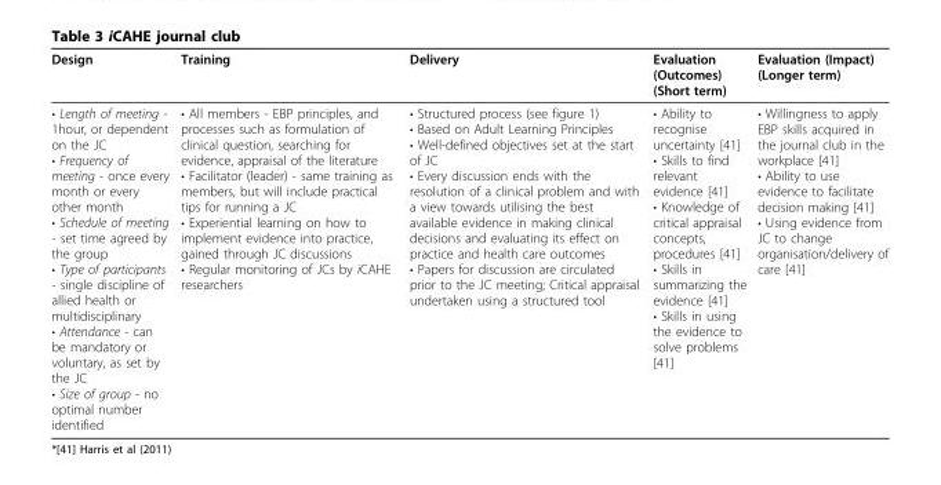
<table><thead><tr><td>Design</td><td>Training</td><td>Delivery</td><td>Evaluation (Outcomes) (Short term)</td><td>Evaluation (Impact) (Longer term)</td></tr></thead><tbody><tr><td>• Length of meeting - 1hour, or dependent on the JC • Frequency of meeting - once every month or every other month • Schedule of meeting - set time agreed by the group • Type of participants - single discipline of allied health or multidisciplinary • Attendance - can be mandatory or voluntary, as set by the JC • Size of group - no optimal number identified</td><td>• All members - EBP principles, and processes such as formulation of clinical question, searching for evidence, appraisal of the literature • Facilitator (leader) - same training as members, but will include practical tips for running a JC • Experiential learning on how to implement evidence into practice, gained through JC discussions • Regular monitoring of JCs by iCAHE researchers</td><td>• Structured process (see figure 1) • Based on Adult Learning Principles • Well-defined objectives set at the start of JC • Every discussion ends with the resolution of a clinical problem and with a view towards utilising the best available evidence in making clinical decisions and evaluating its effect on practice and health care outcomes • Papers for discussion are circulated prior to the JC meeting; Critical appraisal undertaken using a structured tool</td><td>• Ability to recognise uncertainty [41] • Skills to find relevant evidence [41] • Knowledge of critical appraisal concepts, procedures [41] • Skills in summarizing the evidence [41] • Skills in using the evidence to solve problems [41]</td><td>• Willingness to apply EBP skills acquired in the journal club in the workplace [41] • Ability to use evidence to facilitate decision making [41] • Using evidence from JC to change organisation/delivery of care [41]</td></tr></tbody></table>